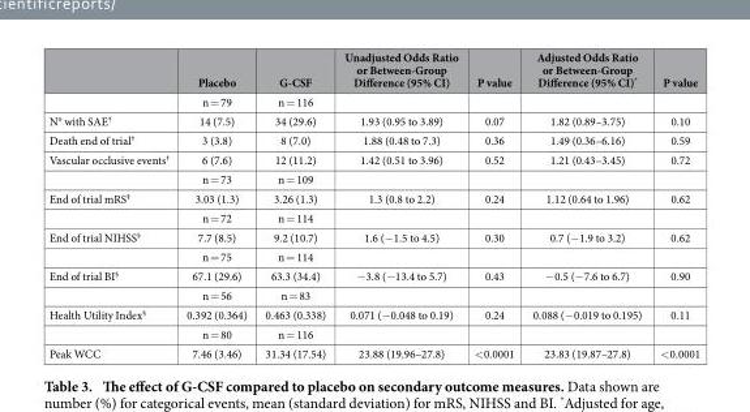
<table><thead><tr><td></td><td>Placebo</td><td>G-CSF</td><td>Unadjusted Odds Ratio or Between-Group Difference (95% CI)</td><td>P value</td><td>Adjusted Odds Ratio or Between-Group Difference (95% CI)*</td><td>P value</td></tr></thead><tbody><tr><td></td><td>n = 79</td><td>n = 116</td><td></td><td></td><td></td><td></td></tr><tr><td>N° with SAE†</td><td>14 (7.5)</td><td>34 (29.6)</td><td>1.93 (0.95 to 3.89)</td><td>0.07</td><td>1.82 (0.89–3.75)</td><td>0.10</td></tr><tr><td>Death end of trial†</td><td>3 (3.8)</td><td>8 (7.0)</td><td>1.88 (0.48 to 7.3)</td><td>0.36</td><td>1.49 (0.36–6.16)</td><td>0.59</td></tr><tr><td rowspan="2">Vascular occlusive events†</td><td>6 (7.6)</td><td>12 (11.2)</td><td>1.42 (0.51 to 3.96)</td><td>0.52</td><td>1.21 (0.43–3.45)</td><td>0.72</td></tr><tr><td>n = 73</td><td>n = 109</td><td></td><td></td><td></td><td></td></tr><tr><td rowspan="2">End of trial mRS‡</td><td>3.03 (1.3)</td><td>3.26 (1.3)</td><td>1.3 (0.8 to 2.2)</td><td>0.24</td><td>1.12 (0.64 to 1.96)</td><td>0.62</td></tr><tr><td>n = 72</td><td>n = 114</td><td></td><td></td><td></td><td></td></tr><tr><td rowspan="2">End of trial NIHSS§</td><td>7.7 (8.5)</td><td>9.2 (10.7)</td><td>1.6 (− 1.5 to 4.5)</td><td>0.30</td><td>0.7 (− 1.9 to 3.2)</td><td>0.62</td></tr><tr><td>n = 75</td><td>n = 114</td><td></td><td></td><td></td><td></td></tr><tr><td rowspan="2">End of trial BI§</td><td>67.1 (29.6)</td><td>63.3 (34.4)</td><td>− 3.8 (− 13.4 to 5.7)</td><td>0.43</td><td>− 0.5 (− 7.6 to 6.7)</td><td>0.90</td></tr><tr><td>n = 56</td><td>n = 83</td><td></td><td></td><td></td><td></td></tr><tr><td rowspan="2">Health Utility Index§</td><td>0.392 (0.364)</td><td>0.463 (0.338)</td><td>0.071 (− 0.048 to 0.19)</td><td>0.24</td><td>0.088 (− 0.019 to 0.195)</td><td>0.11</td></tr><tr><td>n = 80</td><td>n = 116</td><td></td><td></td><td></td><td></td></tr><tr><td>Peak WCC</td><td>7.46 (3.46)</td><td>31.34 (17.54)</td><td>23.88 (19.96–27.8)</td><td>&lt; 0.0001</td><td>23.83 (19.87–27.8)</td><td>&lt; 0.0001</td></tr></tbody></table>